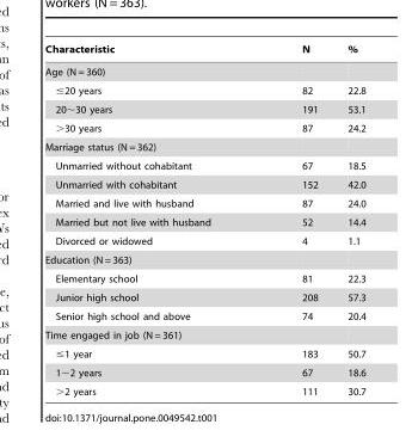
<table><thead><tr><td>Characteristic</td><td>N</td><td>%</td></tr></thead><tbody><tr><td colspan="3">Age (N = 360)</td></tr><tr><td>≤20 years</td><td>82</td><td>22.8</td></tr><tr><td>20∼30 years</td><td>191</td><td>53.1</td></tr><tr><td>&gt;30 years</td><td>87</td><td>24.2</td></tr><tr><td colspan="3">Marriage status (N = 362)</td></tr><tr><td>Unmarried without cohabitant</td><td>67</td><td>18.5</td></tr><tr><td>Unmarried with cohabitant</td><td>152</td><td>42.0</td></tr><tr><td>Married and live with husband</td><td>87</td><td>24.0</td></tr><tr><td>Married but not live with husband</td><td>52</td><td>14.4</td></tr><tr><td>Divorced or widowed</td><td>4</td><td>1.1</td></tr><tr><td colspan="3">Education (N = 363)</td></tr><tr><td>Elementary school</td><td>81</td><td>22.3</td></tr><tr><td>Junior high school</td><td>208</td><td>57.3</td></tr><tr><td>Senior high school and above</td><td>74</td><td>20.4</td></tr><tr><td colspan="3">Time engaged in job (N = 361)</td></tr><tr><td>≤1 year</td><td>183</td><td>50.7</td></tr><tr><td>1∼2 years</td><td>67</td><td>18.6</td></tr><tr><td>&gt;2 years</td><td>111</td><td>30.7</td></tr></tbody></table>